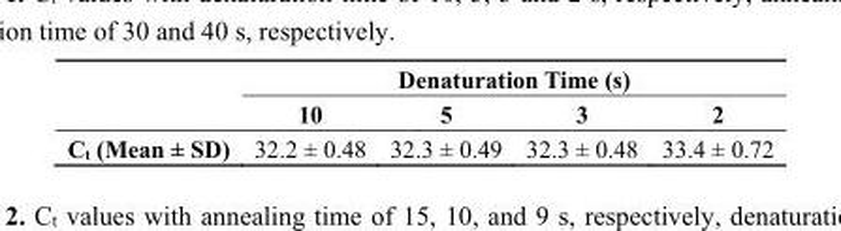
<table><thead><tr><td rowspan="2"></td><td colspan="4">Denaturation Time (s)</td></tr><tr><td>10</td><td>5</td><td>3</td><td>2</td></tr></thead><tbody><tr><td>C<sub>t</sub> (Mean ± SD)</td><td>32.2 ± 0.48</td><td>32.3 ± 0.49</td><td>32.3 ± 0.48</td><td>33.4 ± 0.72</td></tr></tbody></table>